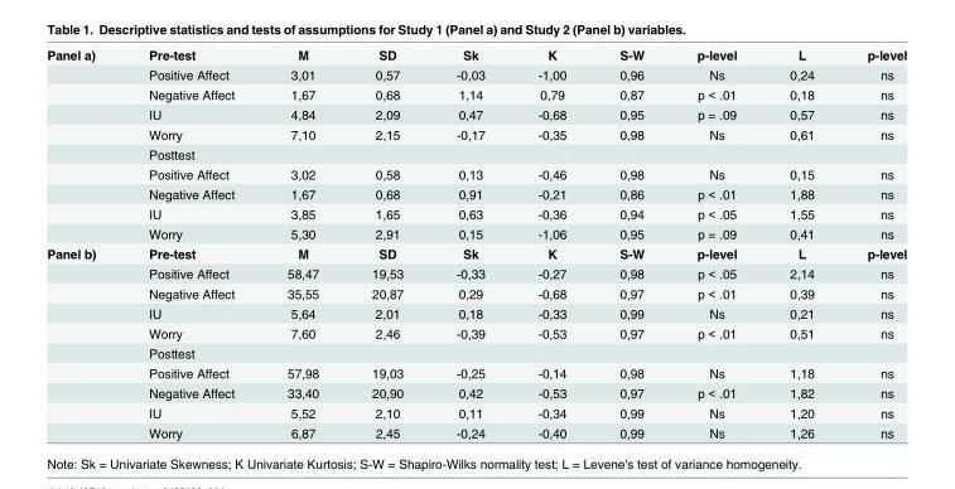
<table><tbody><tr><td rowspan="10">Panel a)</td><td>Pre-test</td><td>M</td><td>SD</td><td>Sk</td><td>K</td><td>S-W</td><td>p-level</td><td>L</td><td>p-level</td></tr><tr><td>Positive Affect</td><td>3,01</td><td>0,57</td><td>-0,03</td><td>-1,00</td><td>0,96</td><td>Ns</td><td>0,24</td><td>ns</td></tr><tr><td>Negative Affect</td><td>1,67</td><td>0,68</td><td>1,14</td><td>0,79</td><td>0,87</td><td>p &lt; .01</td><td>0,18</td><td>ns</td></tr><tr><td>IU</td><td>4,84</td><td>2,09</td><td>0,47</td><td>-0,68</td><td>0,95</td><td>p = .09</td><td>0,57</td><td>ns</td></tr><tr><td>Worry</td><td>7,10</td><td>2,15</td><td>-0,17</td><td>-0,35</td><td>0,98</td><td>Ns</td><td>0,61</td><td>ns</td></tr><tr><td>Posttest</td><td></td><td></td><td></td><td></td><td></td><td></td><td></td><td></td></tr><tr><td>Positive Affect</td><td>3,02</td><td>0,58</td><td>0,13</td><td>-0,46</td><td>0,98</td><td>Ns</td><td>0,15</td><td>ns</td></tr><tr><td>Negative Affect</td><td>1,67</td><td>0,68</td><td>0,91</td><td>-0,21</td><td>0,86</td><td>p &lt; .01</td><td>1,88</td><td>ns</td></tr><tr><td>IU</td><td>3,85</td><td>1,65</td><td>0,63</td><td>-0,36</td><td>0,94</td><td>p &lt; .05</td><td>1,55</td><td>ns</td></tr><tr><td>Worry</td><td>5,30</td><td>2,91</td><td>0,15</td><td>-1,06</td><td>0,95</td><td>p = .09</td><td>0,41</td><td>ns</td></tr><tr><td rowspan="10">Panel b)</td><td>Pre-test</td><td>M</td><td>SD</td><td>Sk</td><td>K</td><td>S-W</td><td>p-level</td><td>L</td><td>p-level</td></tr><tr><td>Positive Affect</td><td>58,47</td><td>19,53</td><td>-0,33</td><td>-0,27</td><td>0,98</td><td>p &lt; .05</td><td>2,14</td><td>ns</td></tr><tr><td>Negative Affect</td><td>35,55</td><td>20,87</td><td>0,29</td><td>-0,68</td><td>0,97</td><td>p &lt; .01</td><td>0,39</td><td>ns</td></tr><tr><td>IU</td><td>5,64</td><td>2,01</td><td>0,18</td><td>-0,33</td><td>0,99</td><td>Ns</td><td>0,21</td><td>ns</td></tr><tr><td>Worry</td><td>7,60</td><td>2,46</td><td>-0,39</td><td>-0,53</td><td>0,97</td><td>p &lt; .01</td><td>0,51</td><td>ns</td></tr><tr><td>Posttest</td><td></td><td></td><td></td><td></td><td></td><td></td><td></td><td></td></tr><tr><td>Positive Affect</td><td>57,98</td><td>19,03</td><td>-0,25</td><td>-0,14</td><td>0,98</td><td>Ns</td><td>1,18</td><td>ns</td></tr><tr><td>Negative Affect</td><td>33,40</td><td>20,90</td><td>0,42</td><td>-0,53</td><td>0,97</td><td>p &lt; .01</td><td>1,82</td><td>ns</td></tr><tr><td>IU</td><td>5,52</td><td>2,10</td><td>0,11</td><td>-0,34</td><td>0,99</td><td>Ns</td><td>1,20</td><td>ns</td></tr><tr><td>Worry</td><td>6,87</td><td>2,45</td><td>-0,24</td><td>-0,40</td><td>0,99</td><td>Ns</td><td>1,26</td><td>ns</td></tr></tbody></table>